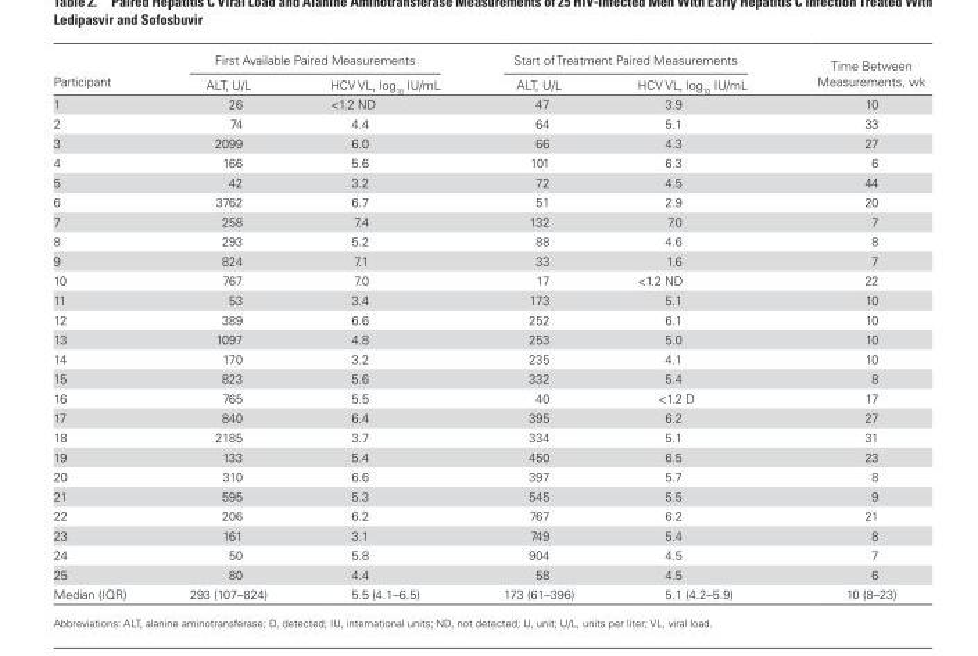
<table><thead><tr><td rowspan="2">Participant</td><td colspan="2">First Available Paired Measurements</td><td colspan="2">Start of Treatment Paired Measurements</td><td rowspan="2">Time Between Measurements, wk</td></tr><tr><td>ALT, U/L</td><td>HCV VL, log<sub>10</sub> IU/mL</td><td>ALT, U/L</td><td>HCV VL, log<sub>10</sub> IU/mL</td></tr></thead><tbody><tr><td>1</td><td>26</td><td>&lt;1.2 ND</td><td>47</td><td>3.9</td><td>10</td></tr><tr><td>2</td><td>74</td><td>4.4</td><td>64</td><td>5.1</td><td>33</td></tr><tr><td>3</td><td>2099</td><td>6.0</td><td>66</td><td>4.3</td><td>27</td></tr><tr><td>4</td><td>166</td><td>5.6</td><td>101</td><td>6.3</td><td>6</td></tr><tr><td>5</td><td>42</td><td>3.2</td><td>72</td><td>4.5</td><td>44</td></tr><tr><td>6</td><td>3762</td><td>6.7</td><td>51</td><td>2.9</td><td>20</td></tr><tr><td>7</td><td>258</td><td>7.4</td><td>132</td><td>7.0</td><td>7</td></tr><tr><td>8</td><td>293</td><td>5.2</td><td>88</td><td>4.6</td><td>8</td></tr><tr><td>9</td><td>824</td><td>7.1</td><td>33</td><td>1.6</td><td>7</td></tr><tr><td>10</td><td>767</td><td>7.0</td><td>17</td><td>&lt;1.2 ND</td><td>22</td></tr><tr><td>11</td><td>53</td><td>3.4</td><td>173</td><td>5.1</td><td>10</td></tr><tr><td>12</td><td>389</td><td>6.6</td><td>252</td><td>6.1</td><td>10</td></tr><tr><td>13</td><td>1097</td><td>4.8</td><td>253</td><td>5.0</td><td>10</td></tr><tr><td>14</td><td>170</td><td>3.2</td><td>235</td><td>4.1</td><td>10</td></tr><tr><td>15</td><td>823</td><td>5.6</td><td>332</td><td>5.4</td><td>8</td></tr><tr><td>16</td><td>765</td><td>5.5</td><td>40</td><td>&lt;1.2 D</td><td>17</td></tr><tr><td>17</td><td>840</td><td>6.4</td><td>395</td><td>6.2</td><td>27</td></tr><tr><td>18</td><td>2185</td><td>3.7</td><td>334</td><td>5.1</td><td>31</td></tr><tr><td>19</td><td>133</td><td>5.4</td><td>450</td><td>6.5</td><td>23</td></tr><tr><td>20</td><td>310</td><td>6.6</td><td>397</td><td>5.7</td><td>8</td></tr><tr><td>21</td><td>595</td><td>5.3</td><td>545</td><td>5.5</td><td>9</td></tr><tr><td>22</td><td>206</td><td>6.2</td><td>767</td><td>6.2</td><td>21</td></tr><tr><td>23</td><td>161</td><td>3.1</td><td>749</td><td>5.4</td><td>8</td></tr><tr><td>24</td><td>50</td><td>5.8</td><td>904</td><td>4.5</td><td>7</td></tr><tr><td>25</td><td>80</td><td>4.4</td><td>58</td><td>4.5</td><td>6</td></tr><tr><td>Median (IQR)</td><td>293 (107–824)</td><td>5.5 (4.1–6.5)</td><td>173 (61–396)</td><td>5.1 (4.2–5.9)</td><td>10 (8–23)</td></tr></tbody></table>